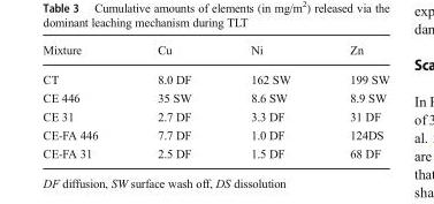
<table><thead><tr><td>Mixture</td><td>Cu</td><td>Ni</td><td>Zn</td></tr></thead><tbody><tr><td>CT</td><td>8.0 DF</td><td>162 SW</td><td>199 SW</td></tr><tr><td>CE 446</td><td>35 SW</td><td>8.6 SW</td><td>8.9 SW</td></tr><tr><td>CE 31</td><td>2.7 DF</td><td>3.3 DF</td><td>31 DF</td></tr><tr><td>CE-FA 446</td><td>7.7 DF</td><td>1.0 DF</td><td>124DS</td></tr><tr><td>CE-FA 31</td><td>2.5 DF</td><td>1.5 DF</td><td>68 DF</td></tr></tbody></table>